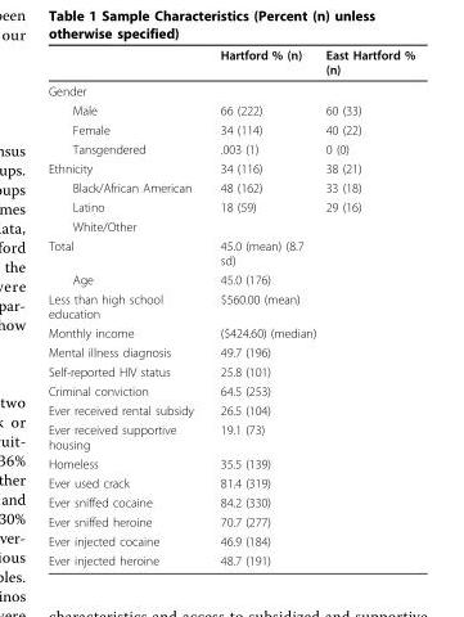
<table><thead><tr><td></td><td>Hartford % (n)</td><td>East Hartford % (n)</td></tr></thead><tbody><tr><td colspan="3">Gender</td></tr><tr><td>Male</td><td>66 (222)</td><td>60 (33)</td></tr><tr><td>Female</td><td>34 (114)</td><td>40 (22)</td></tr><tr><td>Tansgendered</td><td>.003 (1)</td><td>0 (0)</td></tr><tr><td>Ethnicity</td><td>34 (116)</td><td>38 (21)</td></tr><tr><td>Black/African American</td><td>48 (162)</td><td>33 (18)</td></tr><tr><td>Latino</td><td>18 (59)</td><td>29 (16)</td></tr><tr><td colspan="3">White/Other</td></tr><tr><td>Total</td><td>45.0 (mean) (8.7 sd)</td><td></td></tr><tr><td>Age</td><td>45.0 (176)</td><td></td></tr><tr><td>Less than high school education</td><td>$560.00 (mean)</td><td></td></tr><tr><td>Monthly income</td><td>($424.60) (median)</td><td></td></tr><tr><td>Mental illness diagnosis</td><td>49.7 (196)</td><td></td></tr><tr><td>Self-reported HIV status</td><td>25.8 (101)</td><td></td></tr><tr><td>Criminal conviction</td><td>64.5 (253)</td><td></td></tr><tr><td>Ever received rental subsidy</td><td>26.5 (104)</td><td></td></tr><tr><td>Ever received supportive housing</td><td>19.1 (73)</td><td></td></tr><tr><td>Homeless</td><td>35.5 (139)</td><td></td></tr><tr><td>Ever used crack</td><td>81.4 (319)</td><td></td></tr><tr><td>Ever sniffed cocaine</td><td>84.2 (330)</td><td></td></tr><tr><td>Ever sniffed heroine</td><td>70.7 (277)</td><td></td></tr><tr><td>Ever injected cocaine</td><td>46.9 (184)</td><td></td></tr><tr><td>Ever injected heroine</td><td>48.7 (191)</td><td></td></tr></tbody></table>